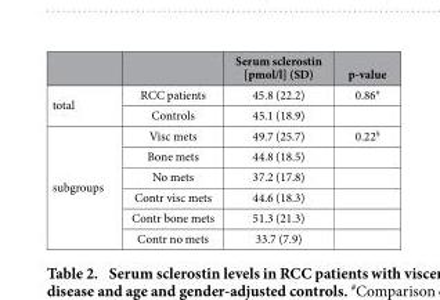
<table><thead><tr><td></td><td></td><td>Serum sclerostin [pmol/l] (SD)</td><td>p-value</td></tr></thead><tbody><tr><td rowspan="2">total</td><td>RCC patients</td><td>45.8 (22.2)</td><td>0.86#</td></tr><tr><td>Controls</td><td>45.1 (18.9)</td><td></td></tr><tr><td rowspan="6">subgroups</td><td>Visc mets</td><td>49.7 (25.7)</td><td>0.22§</td></tr><tr><td>Bone mets</td><td>44.8 (18.5)</td><td></td></tr><tr><td>No mets</td><td>37.2 (17.8)</td><td></td></tr><tr><td>Contr visc mets</td><td>44.6 (18.3)</td><td></td></tr><tr><td>Contr bone mets</td><td>51.3 (21.3)</td><td></td></tr><tr><td>Contr no mets</td><td>33.7 (7.9)</td><td></td></tr></tbody></table>